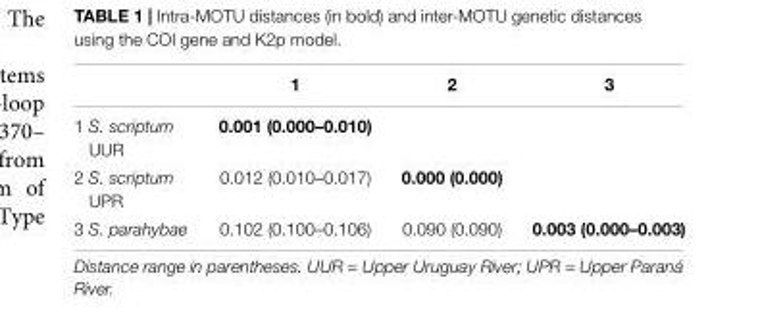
<table><thead><tr><td></td><td>1</td><td>2</td><td>3</td></tr></thead><tbody><tr><td>1 S. scriptum UUR</td><td>0.001 (0.000–0.010)</td><td></td><td></td></tr><tr><td>2 S. scriptum UPR</td><td>0.012 (0.010–0.017)</td><td>0.000 (0.000)</td><td></td></tr><tr><td>3 S. parahybae</td><td>0.102 (0.100–0.106)</td><td>0.090 (0.090)</td><td>0.003 (0.000–0.003)</td></tr></tbody></table>